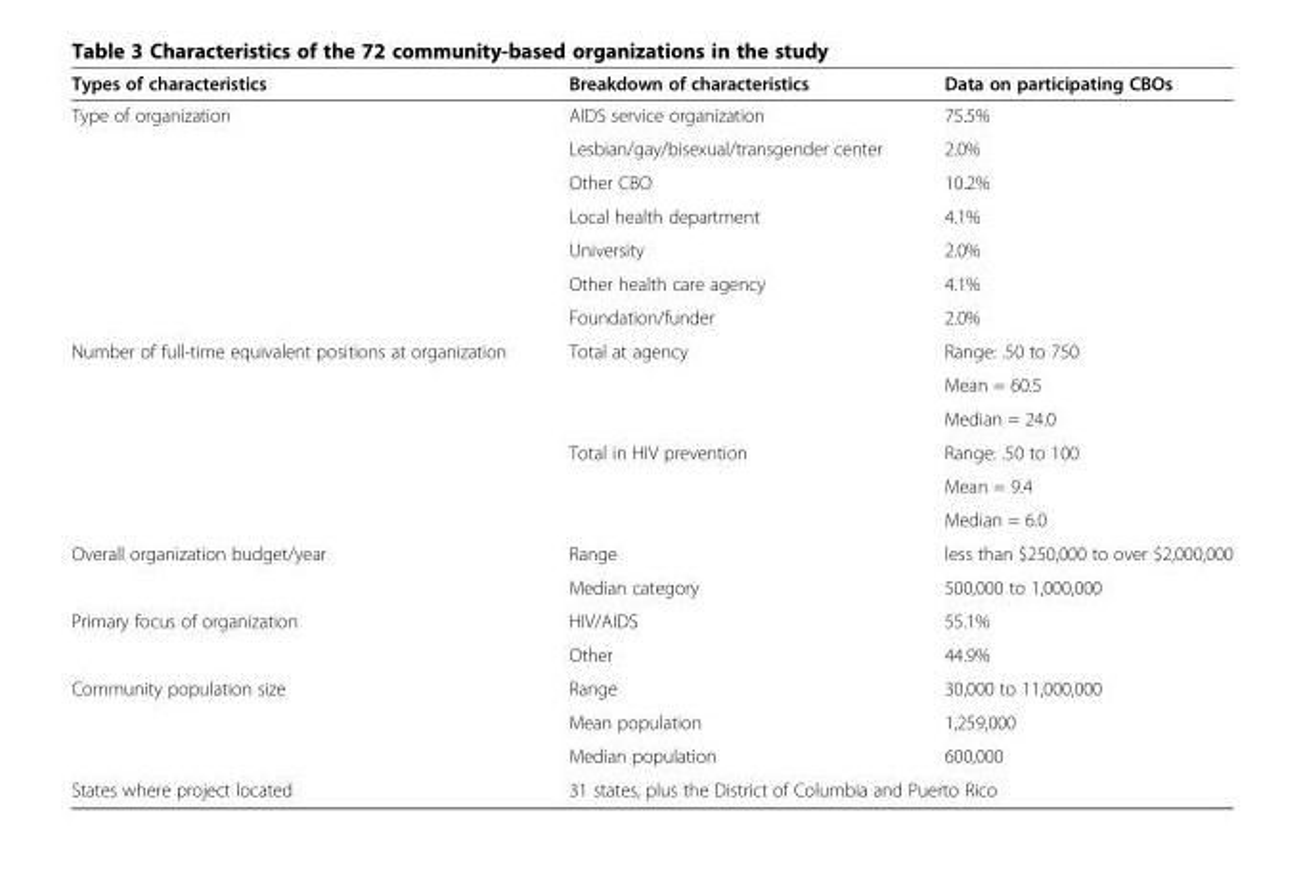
<table><thead><tr><td>Types of characteristics</td><td>Breakdown of characteristics</td><td>Data on participating CBOs</td></tr></thead><tbody><tr><td rowspan="7">Type of organization</td><td>AIDS service organization</td><td>75.5%</td></tr><tr><td>Lesbian/gay/bisexual/transgender center</td><td>2.0%</td></tr><tr><td>Other CBO</td><td>10.2%</td></tr><tr><td>Local health department</td><td>4.1%</td></tr><tr><td>University</td><td>2.0%</td></tr><tr><td>Other health care agency</td><td>4.1%</td></tr><tr><td>Foundation/funder</td><td>2.0%</td></tr><tr><td rowspan="6">Number of full-time equivalent positions at organization</td><td>Total at agency</td><td>Range: .50 to 750</td></tr><tr><td rowspan="2"></td><td>Mean = 60.5</td></tr><tr><td>Median = 24.0</td></tr><tr><td>Total in HIV prevention</td><td>Range: .50 to 100</td></tr><tr><td rowspan="2"></td><td>Mean = 9.4</td></tr><tr><td>Median = 6.0</td></tr><tr><td rowspan="2">Overall organization budget/year</td><td>Range</td><td>less than $250,000 to over $2,000,000</td></tr><tr><td>Median category</td><td>500,000 to 1,000,000</td></tr><tr><td rowspan="2">Primary focus of organization</td><td>HIV/AIDS</td><td>55.1%</td></tr><tr><td>Other</td><td>44.9%</td></tr><tr><td rowspan="3">Community population size</td><td>Range</td><td>30,000 to 11,000,000</td></tr><tr><td>Mean population</td><td>1,259,000</td></tr><tr><td>Median population</td><td>600,000</td></tr><tr><td>States where project located</td><td colspan="2">31 states, plus the District of Columbia and Puerto Rico</td></tr></tbody></table>